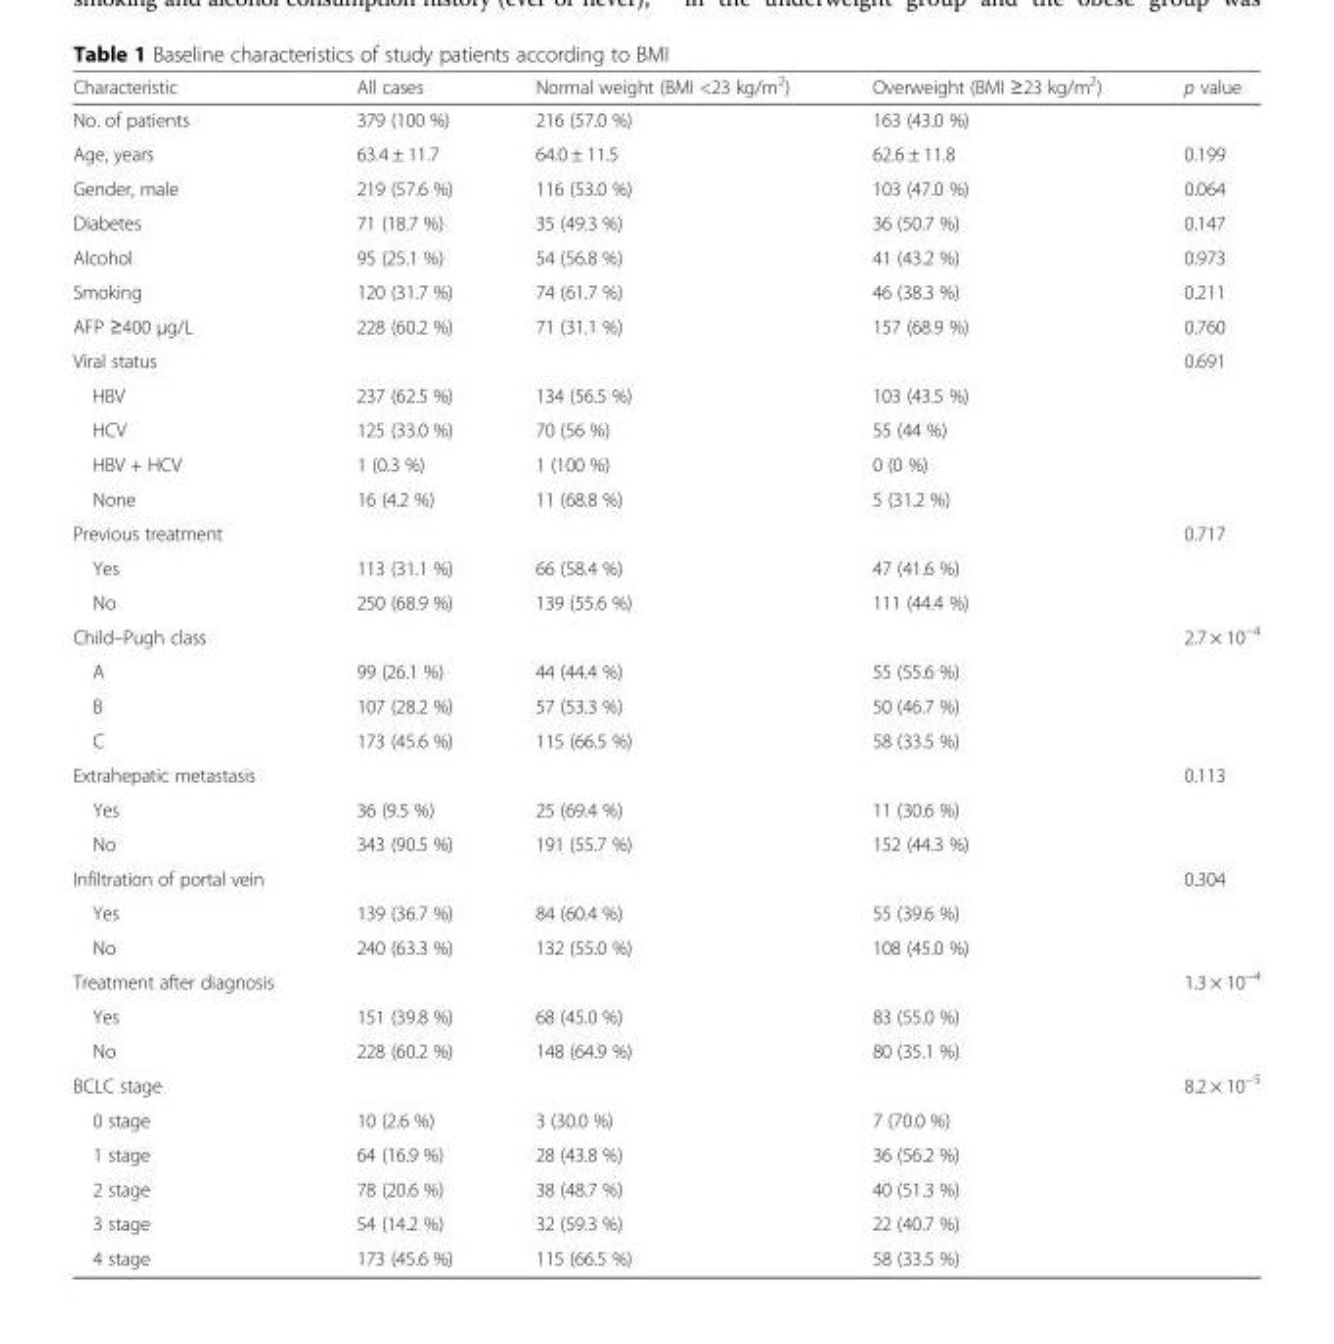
<table><thead><tr><td>Characteristic</td><td>All cases</td><td>Normal weight (BMI &lt;23 kg/m<sup>2</sup>)</td><td>Overweight (BMI ≥23 kg/m<sup>2</sup>)</td><td>p value</td></tr></thead><tbody><tr><td>No. of patients</td><td>379 (100 %)</td><td>216 (57.0 %)</td><td>163 (43.0 %)</td><td></td></tr><tr><td>Age, years</td><td>63.4 ± 11.7</td><td>64.0 ± 11.5</td><td>62.6 ± 11.8</td><td>0.199</td></tr><tr><td>Gender, male</td><td>219 (57.6 %)</td><td>116 (53.0 %)</td><td>103 (47.0 %)</td><td>0.064</td></tr><tr><td>Diabetes</td><td>71 (18.7 %)</td><td>35 (49.3 %)</td><td>36 (50.7 %)</td><td>0.147</td></tr><tr><td>Alcohol</td><td>95 (25.1 %)</td><td>54 (56.8 %)</td><td>41 (43.2 %)</td><td>0.973</td></tr><tr><td>Smoking</td><td>120 (31.7 %)</td><td>74 (61.7 %)</td><td>46 (38.3 %)</td><td>0.211</td></tr><tr><td>AFP ≥400 μg/L</td><td>228 (60.2 %)</td><td>71 (31.1 %)</td><td>157 (68.9 %)</td><td>0.760</td></tr><tr><td>Viral status</td><td></td><td></td><td></td><td>0.691</td></tr><tr><td>HBV</td><td>237 (62.5 %)</td><td>134 (56.5 %)</td><td>103 (43.5 %)</td><td></td></tr><tr><td>HCV</td><td>125 (33.0 %)</td><td>70 (56 %)</td><td>55 (44 %)</td><td></td></tr><tr><td>HBV + HCV</td><td>1 (0.3 %)</td><td>1 (100 %)</td><td>0 (0 %)</td><td></td></tr><tr><td>None</td><td>16 (4.2 %)</td><td>11 (68.8 %)</td><td>5 (31.2 %)</td><td></td></tr><tr><td>Previous treatment</td><td></td><td></td><td></td><td>0.717</td></tr><tr><td>Yes</td><td>113 (31.1 %)</td><td>66 (58.4 %)</td><td>47 (41.6 %)</td><td></td></tr><tr><td>No</td><td>250 (68.9 %)</td><td>139 (55.6 %)</td><td>111 (44.4 %)</td><td></td></tr><tr><td>Child–Pugh class</td><td></td><td></td><td></td><td>2.7 × 10<sup>−4</sup></td></tr><tr><td>A</td><td>99 (26.1 %)</td><td>44 (44.4 %)</td><td>55 (55.6 %)</td><td></td></tr><tr><td>B</td><td>107 (28.2 %)</td><td>57 (53.3 %)</td><td>50 (46.7 %)</td><td></td></tr><tr><td>C</td><td>173 (45.6 %)</td><td>115 (66.5 %)</td><td>58 (33.5 %)</td><td></td></tr><tr><td>Extrahepatic metastasis</td><td></td><td></td><td></td><td>0.113</td></tr><tr><td>Yes</td><td>36 (9.5 %)</td><td>25 (69.4 %)</td><td>11 (30.6 %)</td><td></td></tr><tr><td>No</td><td>343 (90.5 %)</td><td>191 (55.7 %)</td><td>152 (44.3 %)</td><td></td></tr><tr><td>Infiltration of portal vein</td><td></td><td></td><td></td><td>0.304</td></tr><tr><td>Yes</td><td>139 (36.7 %)</td><td>84 (60.4 %)</td><td>55 (39.6 %)</td><td></td></tr><tr><td>No</td><td>240 (63.3 %)</td><td>132 (55.0 %)</td><td>108 (45.0 %)</td><td></td></tr><tr><td>Treatment after diagnosis</td><td></td><td></td><td></td><td>1.3 × 10<sup>−4</sup></td></tr><tr><td>Yes</td><td>151 (39.8 %)</td><td>68 (45.0 %)</td><td>83 (55.0 %)</td><td></td></tr><tr><td>No</td><td>228 (60.2 %)</td><td>148 (64.9 %)</td><td>80 (35.1 %)</td><td></td></tr><tr><td>BCLC stage</td><td></td><td></td><td></td><td>8.2 × 10<sup>−5</sup></td></tr><tr><td>0 stage</td><td>10 (2.6 %)</td><td>3 (30.0 %)</td><td>7 (70.0 %)</td><td></td></tr><tr><td>1 stage</td><td>64 (16.9 %)</td><td>28 (43.8 %)</td><td>36 (56.2 %)</td><td></td></tr><tr><td>2 stage</td><td>78 (20.6 %)</td><td>38 (48.7 %)</td><td>40 (51.3 %)</td><td></td></tr><tr><td>3 stage</td><td>54 (14.2 %)</td><td>32 (59.3 %)</td><td>22 (40.7 %)</td><td></td></tr><tr><td>4 stage</td><td>173 (45.6 %)</td><td>115 (66.5 %)</td><td>58 (33.5 %)</td><td></td></tr></tbody></table>